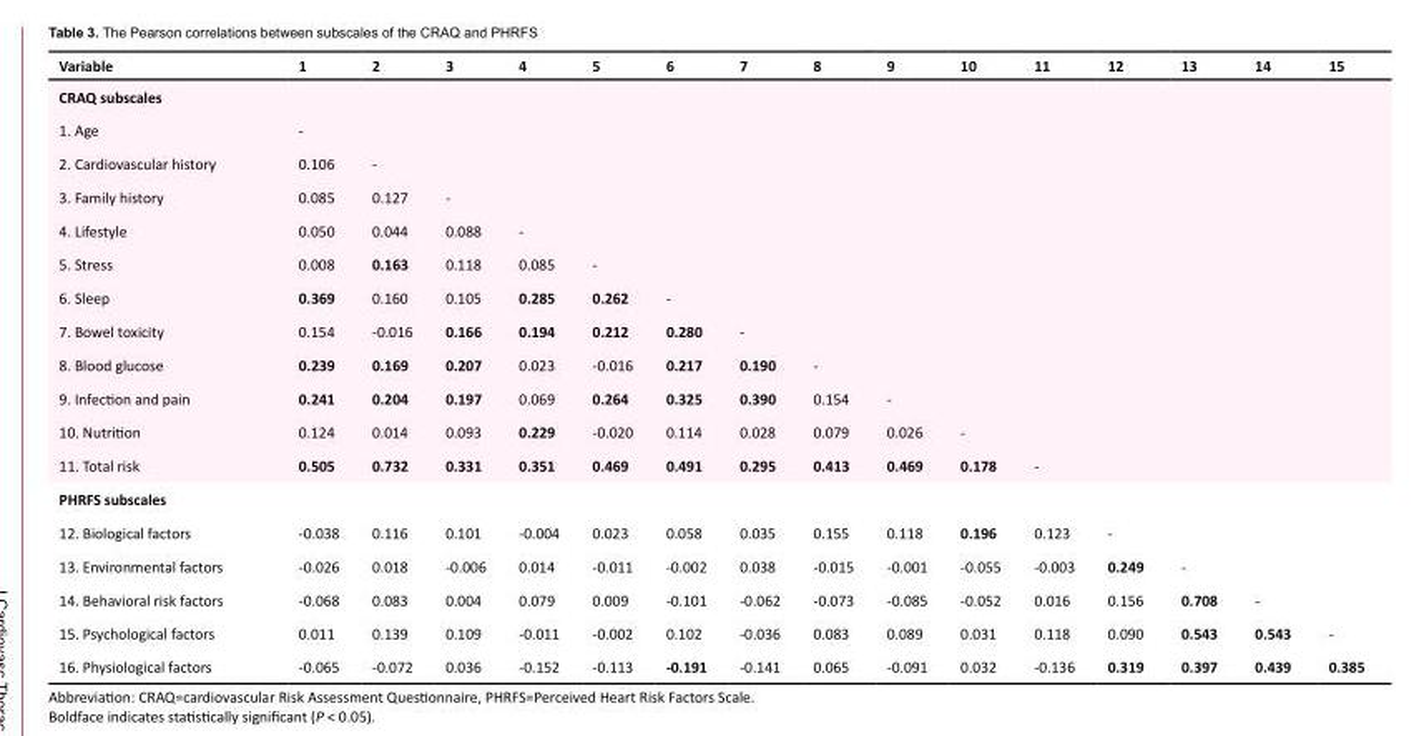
<table><tbody><tr><td>Variable</td><td>1</td><td>2</td><td>3</td><td>4</td><td>5</td><td>6</td><td>7</td><td>8</td><td>9</td><td>10</td><td>11</td><td>12</td><td>13</td><td>14</td><td>15</td></tr><tr><td colspan="16">CRAQ subscales</td></tr><tr><td>1. Age</td><td>-</td><td></td><td></td><td></td><td></td><td></td><td></td><td></td><td></td><td></td><td></td><td></td><td></td><td></td><td></td></tr><tr><td>2. Cardiovascular history</td><td>0.106</td><td>-</td><td></td><td></td><td></td><td></td><td></td><td></td><td></td><td></td><td></td><td></td><td></td><td></td><td></td></tr><tr><td>3. Family history</td><td>0.085</td><td>0.127</td><td>-</td><td></td><td></td><td></td><td></td><td></td><td></td><td></td><td></td><td></td><td></td><td></td><td></td></tr><tr><td>4. Lifestyle</td><td>0.050</td><td>0.044</td><td>0.088</td><td>-</td><td></td><td></td><td></td><td></td><td></td><td></td><td></td><td></td><td></td><td></td><td></td></tr><tr><td>5. Stress</td><td>0.008</td><td>0.163</td><td>0.118</td><td>0.085</td><td>-</td><td></td><td></td><td></td><td></td><td></td><td></td><td></td><td></td><td></td><td></td></tr><tr><td>6. Sleep</td><td>0.369</td><td>0.160</td><td>0.105</td><td>0.285</td><td>0.262</td><td>-</td><td></td><td></td><td></td><td></td><td></td><td></td><td></td><td></td><td></td></tr><tr><td>7. Bowel toxicity</td><td>0.154</td><td>-0.016</td><td>0.166</td><td>0.194</td><td>0.212</td><td>0.280</td><td>-</td><td></td><td></td><td></td><td></td><td></td><td></td><td></td><td></td></tr><tr><td>8. Blood glucose</td><td>0.239</td><td>0.169</td><td>0.207</td><td>0.023</td><td>-0.016</td><td>0.217</td><td>0.190</td><td>-</td><td></td><td></td><td></td><td></td><td></td><td></td><td></td></tr><tr><td>9. Infection and pain</td><td>0.241</td><td>0.204</td><td>0.197</td><td>0.069</td><td>0.264</td><td>0.325</td><td>0.390</td><td>0.154</td><td>-</td><td></td><td></td><td></td><td></td><td></td><td></td></tr><tr><td>10. Nutrition</td><td>0.124</td><td>0.014</td><td>0.093</td><td>0.229</td><td>-0.020</td><td>0.114</td><td>0.028</td><td>0.079</td><td>0.026</td><td>-</td><td></td><td></td><td></td><td></td><td></td></tr><tr><td>11. Total risk</td><td>0.505</td><td>0.732</td><td>0.331</td><td>0.351</td><td>0.469</td><td>0.491</td><td>0.295</td><td>0.413</td><td>0.469</td><td>0.178</td><td>-</td><td></td><td></td><td></td><td></td></tr><tr><td colspan="16">PHRFS subscales</td></tr><tr><td>12. Biological factors</td><td>-0.038</td><td>0.116</td><td>0.101</td><td>-0.004</td><td>0.023</td><td>0.058</td><td>0.035</td><td>0.155</td><td>0.118</td><td>0.196</td><td>0.123</td><td>-</td><td></td><td></td><td></td></tr><tr><td>13. Environmental factors</td><td>-0.026</td><td>0.018</td><td>-0.006</td><td>0.014</td><td>-0.011</td><td>-0.002</td><td>0.038</td><td>-0.015</td><td>-0.001</td><td>-0.055</td><td>-0.003</td><td>0.249</td><td>-</td><td></td><td></td></tr><tr><td>14. Behavioral risk factors</td><td>-0.068</td><td>0.083</td><td>0.004</td><td>0.079</td><td>0.009</td><td>-0.101</td><td>-0.062</td><td>-0.073</td><td>-0.085</td><td>-0.052</td><td>0.016</td><td>0.156</td><td>0.708</td><td>-</td><td></td></tr><tr><td>15. Psychological factors</td><td>0.011</td><td>0.139</td><td>0.109</td><td>-0.011</td><td>-0.002</td><td>0.102</td><td>-0.036</td><td>0.083</td><td>0.089</td><td>0.031</td><td>0.118</td><td>0.090</td><td>0.543</td><td>0.543</td><td>-</td></tr><tr><td>16. Physiological factors</td><td>-0.065</td><td>-0.072</td><td>0.036</td><td>-0.152</td><td>-0.113</td><td>-0.191</td><td>-0.141</td><td>0.065</td><td>-0.091</td><td>0.032</td><td>-0.136</td><td>0.319</td><td>0.397</td><td>0.439</td><td>0.385</td></tr></tbody></table>